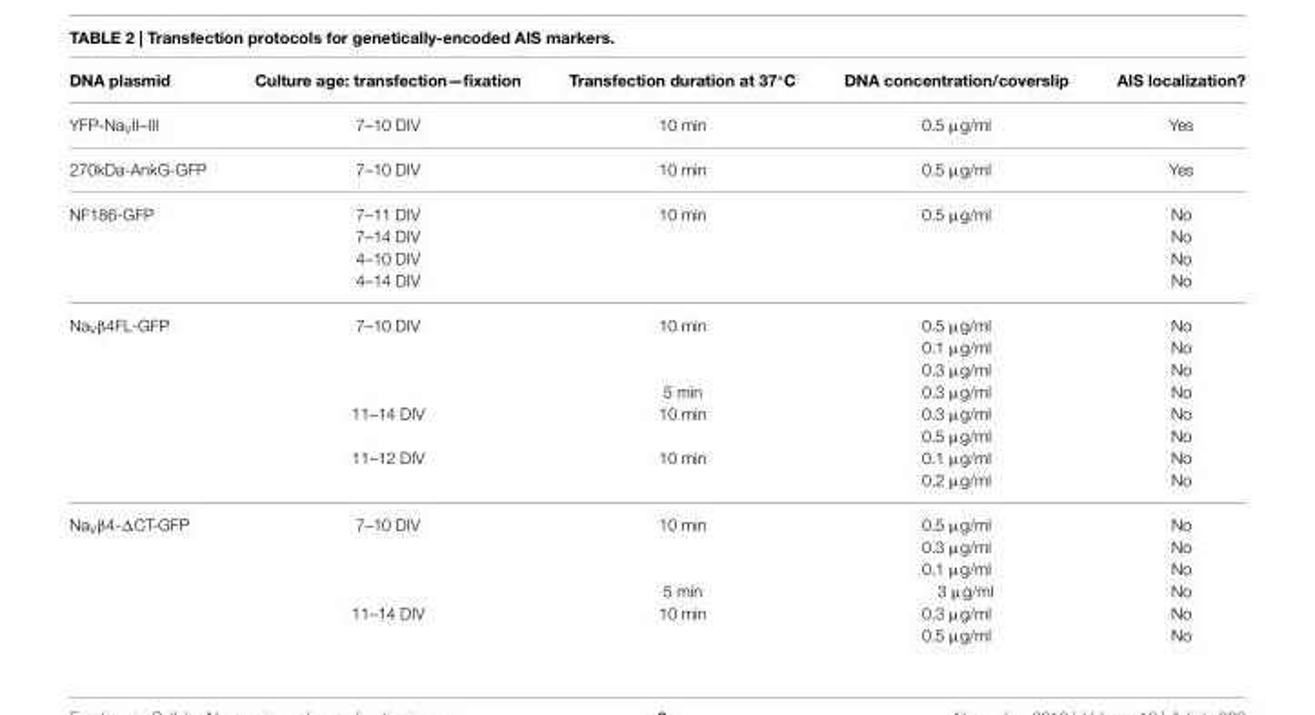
<table><thead><tr><td>DNA plasmid</td><td>Culture age: transfection—fixation</td><td>Transfection duration at 37◦C</td><td>DNA concentration/coverslip</td><td>AIS localization?</td></tr></thead><tbody><tr><td>YFP-Na<sub>V</sub>II–III</td><td>7–10 DIV</td><td>10 min</td><td>0.5 µg/ml</td><td>Yes</td></tr><tr><td>270kDa-AnkG-GFP</td><td>7–10 DIV</td><td>10 min</td><td>0.5 µg/ml</td><td>Yes</td></tr><tr><td rowspan="4">NF186-GFP</td><td>7–11 DIV</td><td>10 min</td><td>0.5 µg/ml</td><td>No</td></tr><tr><td>7–14 DIV</td><td></td><td></td><td>No</td></tr><tr><td>4–10 DIV</td><td></td><td></td><td>No</td></tr><tr><td>4–14 DIV</td><td></td><td></td><td>No</td></tr><tr><td rowspan="8">Na<sub>V</sub>β4FL-GFP</td><td>7–10 DIV</td><td>10 min</td><td>0.5 µg/ml</td><td>No</td></tr><tr><td></td><td></td><td>0.1 µg/ml</td><td>No</td></tr><tr><td></td><td></td><td>0.3 µg/ml</td><td>No</td></tr><tr><td></td><td>5 min</td><td>0.3 µg/ml</td><td>No</td></tr><tr><td>11–14 DIV</td><td>10 min</td><td>0.3 µg/ml</td><td>No</td></tr><tr><td></td><td></td><td>0.5 µg/ml</td><td>No</td></tr><tr><td>11–12 DIV</td><td>10 min</td><td>0.1 µg/ml</td><td>No</td></tr><tr><td></td><td></td><td>0.2 µg/ml</td><td>No</td></tr><tr><td rowspan="6">NaVβ4-∆CT-GFP</td><td>7–10 DIV</td><td>10 min</td><td>0.5 µg/ml</td><td>No</td></tr><tr><td></td><td></td><td>0.3 µg/ml</td><td>No</td></tr><tr><td></td><td></td><td>0.1 µg/ml</td><td>No</td></tr><tr><td></td><td>5 min</td><td>3 µg/ml</td><td>No</td></tr><tr><td>11–14 DIV</td><td>10 min</td><td>0.3 µg/ml</td><td>No</td></tr><tr><td></td><td></td><td>0.5 µg/ml</td><td>No</td></tr></tbody></table>